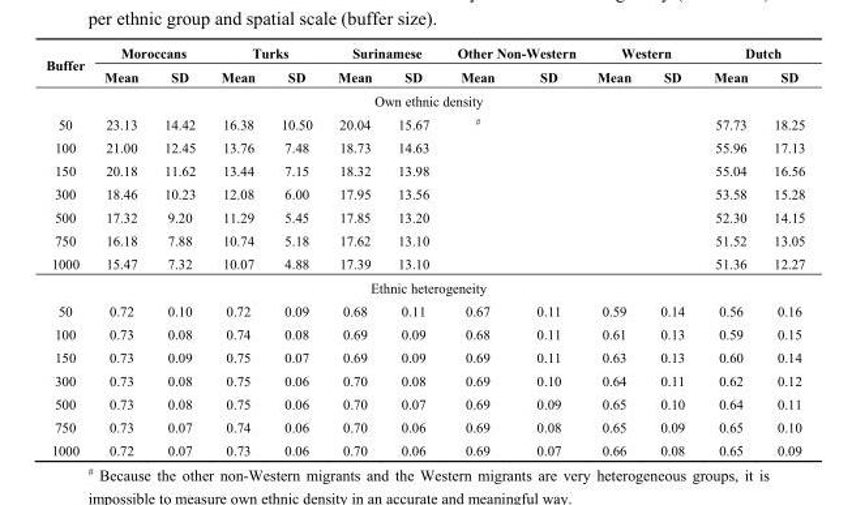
<table><thead><tr><td rowspan="2">Buffer</td><td colspan="2">Moroccans</td><td colspan="2">Turks</td><td colspan="2">Surinamese</td><td colspan="2">Other Non-Western</td><td colspan="2">Western</td><td colspan="2">Dutch</td></tr><tr><td>Mean</td><td>SD</td><td>Mean</td><td>SD</td><td>Mean</td><td>SD</td><td>Mean</td><td>SD</td><td>Mean</td><td>SD</td><td>Mean</td><td>SD</td></tr></thead><tbody><tr><td colspan="13">Own ethnic density</td></tr><tr><td>50</td><td>23.13</td><td>14.42</td><td>16.38</td><td>10.50</td><td>20.04</td><td>15.67</td><td><sup>#</sup></td><td></td><td></td><td></td><td>57.73</td><td>18.25</td></tr><tr><td>100</td><td>21.00</td><td>12.45</td><td>13.76</td><td>7.48</td><td>18.73</td><td>14.63</td><td></td><td></td><td></td><td></td><td>55.96</td><td>17.13</td></tr><tr><td>150</td><td>20.18</td><td>11.62</td><td>13.44</td><td>7.15</td><td>18.32</td><td>13.98</td><td></td><td></td><td></td><td></td><td>55.04</td><td>16.56</td></tr><tr><td>300</td><td>18.46</td><td>10.23</td><td>12.08</td><td>6.00</td><td>17.95</td><td>13.56</td><td></td><td></td><td></td><td></td><td>53.58</td><td>15.28</td></tr><tr><td>500</td><td>17.32</td><td>9.20</td><td>11.29</td><td>5.45</td><td>17.85</td><td>13.20</td><td></td><td></td><td></td><td></td><td>52.30</td><td>14.15</td></tr><tr><td>750</td><td>16.18</td><td>7.88</td><td>10.74</td><td>5.18</td><td>17.62</td><td>13.10</td><td></td><td></td><td></td><td></td><td>51.52</td><td>13.05</td></tr><tr><td>1000</td><td>15.47</td><td>7.32</td><td>10.07</td><td>4.88</td><td>17.39</td><td>13.10</td><td></td><td></td><td></td><td></td><td>51.36</td><td>12.27</td></tr><tr><td colspan="13">Ethnic heterogeneity</td></tr><tr><td>50</td><td>0.72</td><td>0.10</td><td>0.72</td><td>0.09</td><td>0.68</td><td>0.11</td><td>0.67</td><td>0.11</td><td>0.59</td><td>0.14</td><td>0.56</td><td>0.16</td></tr><tr><td>100</td><td>0.73</td><td>0.08</td><td>0.74</td><td>0.08</td><td>0.69</td><td>0.09</td><td>0.68</td><td>0.11</td><td>0.61</td><td>0.13</td><td>0.59</td><td>0.15</td></tr><tr><td>150</td><td>0.73</td><td>0.09</td><td>0.75</td><td>0.07</td><td>0.69</td><td>0.09</td><td>0.69</td><td>0.11</td><td>0.63</td><td>0.13</td><td>0.60</td><td>0.14</td></tr><tr><td>300</td><td>0.73</td><td>0.08</td><td>0.75</td><td>0.06</td><td>0.70</td><td>0.08</td><td>0.69</td><td>0.10</td><td>0.64</td><td>0.11</td><td>0.62</td><td>0.12</td></tr><tr><td>500</td><td>0.73</td><td>0.08</td><td>0.75</td><td>0.06</td><td>0.70</td><td>0.07</td><td>0.69</td><td>0.09</td><td>0.65</td><td>0.10</td><td>0.64</td><td>0.11</td></tr><tr><td>750</td><td>0.73</td><td>0.07</td><td>0.74</td><td>0.06</td><td>0.70</td><td>0.06</td><td>0.69</td><td>0.08</td><td>0.65</td><td>0.09</td><td>0.65</td><td>0.10</td></tr><tr><td>1000</td><td>0.72</td><td>0.07</td><td>0.73</td><td>0.06</td><td>0.70</td><td>0.06</td><td>0.69</td><td>0.07</td><td>0.66</td><td>0.08</td><td>0.65</td><td>0.09</td></tr></tbody></table>